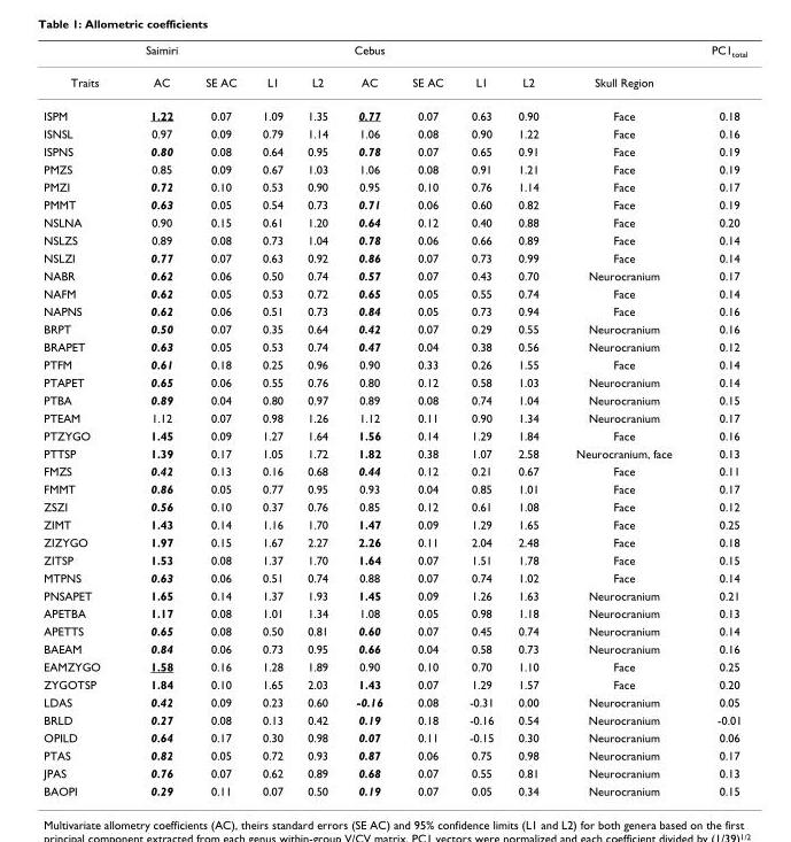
<table><thead><tr><td></td><td>Saimiri</td><td></td><td></td><td></td><td>Cebus</td><td></td><td></td><td></td><td></td><td>PC1<sub>total</sub></td></tr></thead><tbody><tr><td>Traits</td><td>AC</td><td>SE AC</td><td>L1</td><td>L2</td><td>AC</td><td>SE AC</td><td>L1</td><td>L2</td><td>Skull Region</td><td></td></tr><tr><td>ISPM</td><td>1.22</td><td>0.07</td><td>1.09</td><td>1.35</td><td>0.77</td><td>0.07</td><td>0.63</td><td>0.90</td><td>Face</td><td>0.18</td></tr><tr><td>ISNSL</td><td>0.97</td><td>0.09</td><td>0.79</td><td>1.14</td><td>1.06</td><td>0.08</td><td>0.90</td><td>1.22</td><td>Face</td><td>0.16</td></tr><tr><td>ISPNS</td><td>0.80</td><td>0.08</td><td>0.64</td><td>0.95</td><td>0.78</td><td>0.07</td><td>0.65</td><td>0.91</td><td>Face</td><td>0.19</td></tr><tr><td>PMZS</td><td>0.85</td><td>0.09</td><td>0.67</td><td>1.03</td><td>1.06</td><td>0.08</td><td>0.91</td><td>1.21</td><td>Face</td><td>0.19</td></tr><tr><td>PMZI</td><td>0.72</td><td>0.10</td><td>0.53</td><td>0.90</td><td>0.95</td><td>0.10</td><td>0.76</td><td>1.14</td><td>Face</td><td>0.17</td></tr><tr><td>PMMT</td><td>0.63</td><td>0.05</td><td>0.54</td><td>0.73</td><td>0.71</td><td>0.06</td><td>0.60</td><td>0.82</td><td>Face</td><td>0.19</td></tr><tr><td>NSLNA</td><td>0.90</td><td>0.15</td><td>0.61</td><td>1.20</td><td>0.64</td><td>0.12</td><td>0.40</td><td>0.88</td><td>Face</td><td>0.20</td></tr><tr><td>NSLZS</td><td>0.89</td><td>0.08</td><td>0.73</td><td>1.04</td><td>0.78</td><td>0.06</td><td>0.66</td><td>0.89</td><td>Face</td><td>0.14</td></tr><tr><td>NSLZI</td><td>0.77</td><td>0.07</td><td>0.63</td><td>0.92</td><td>0.86</td><td>0.07</td><td>0.73</td><td>0.99</td><td>Face</td><td>0.14</td></tr><tr><td>NABR</td><td>0.62</td><td>0.06</td><td>0.50</td><td>0.74</td><td>0.57</td><td>0.07</td><td>0.43</td><td>0.70</td><td>Neurocranium</td><td>0.17</td></tr><tr><td>NAFM</td><td>0.62</td><td>0.05</td><td>0.53</td><td>0.72</td><td>0.65</td><td>0.05</td><td>0.55</td><td>0.74</td><td>Face</td><td>0.14</td></tr><tr><td>NAPNS</td><td>0.62</td><td>0.06</td><td>0.51</td><td>0.73</td><td>0.84</td><td>0.05</td><td>0.73</td><td>0.94</td><td>Face</td><td>0.16</td></tr><tr><td>BRPT</td><td>0.50</td><td>0.07</td><td>0.35</td><td>0.64</td><td>0.42</td><td>0.07</td><td>0.29</td><td>0.55</td><td>Neurocranium</td><td>0.16</td></tr><tr><td>BRAPET</td><td>0.63</td><td>0.05</td><td>0.53</td><td>0.74</td><td>0.47</td><td>0.04</td><td>0.38</td><td>0.56</td><td>Neurocranium</td><td>0.12</td></tr><tr><td>PTFM</td><td>0.61</td><td>0.18</td><td>0.25</td><td>0.96</td><td>0.90</td><td>0.33</td><td>0.26</td><td>1.55</td><td>Face</td><td>0.14</td></tr><tr><td>PTAPET</td><td>0.65</td><td>0.06</td><td>0.55</td><td>0.76</td><td>0.80</td><td>0.12</td><td>0.58</td><td>1.03</td><td>Neurocranium</td><td>0.14</td></tr><tr><td>PTBA</td><td>0.89</td><td>0.04</td><td>0.80</td><td>0.97</td><td>0.89</td><td>0.08</td><td>0.74</td><td>1.04</td><td>Neurocranium</td><td>0.15</td></tr><tr><td>PTEAM</td><td>1.12</td><td>0.07</td><td>0.98</td><td>1.26</td><td>1.12</td><td>0.11</td><td>0.90</td><td>1.34</td><td>Neurocranium</td><td>0.17</td></tr><tr><td>PTZYGO</td><td>1.45</td><td>0.09</td><td>1.27</td><td>1.64</td><td>1.56</td><td>0.14</td><td>1.29</td><td>1.84</td><td>Face</td><td>0.16</td></tr><tr><td>PTTSP</td><td>1.39</td><td>0.17</td><td>1.05</td><td>1.72</td><td>1.82</td><td>0.38</td><td>1.07</td><td>2.58</td><td>Neurocranium, face</td><td>0.13</td></tr><tr><td>FMZS</td><td>0.42</td><td>0.13</td><td>0.16</td><td>0.68</td><td>0.44</td><td>0.12</td><td>0.21</td><td>0.67</td><td>Face</td><td>0.11</td></tr><tr><td>FMMT</td><td>0.86</td><td>0.05</td><td>0.77</td><td>0.95</td><td>0.93</td><td>0.04</td><td>0.85</td><td>1.01</td><td>Face</td><td>0.17</td></tr><tr><td>ZSZI</td><td>0.56</td><td>0.10</td><td>0.37</td><td>0.76</td><td>0.85</td><td>0.12</td><td>0.61</td><td>1.08</td><td>Face</td><td>0.12</td></tr><tr><td>ZIMT</td><td>1.43</td><td>0.14</td><td>1.16</td><td>1.70</td><td>1.47</td><td>0.09</td><td>1.29</td><td>1.65</td><td>Face</td><td>0.25</td></tr><tr><td>ZIZYGO</td><td>1.97</td><td>0.15</td><td>1.67</td><td>2.27</td><td>2.26</td><td>0.11</td><td>2.04</td><td>2.48</td><td>Face</td><td>0.18</td></tr><tr><td>ZITSP</td><td>1.53</td><td>0.08</td><td>1.37</td><td>1.70</td><td>1.64</td><td>0.07</td><td>1.51</td><td>1.78</td><td>Face</td><td>0.15</td></tr><tr><td>MTPNS</td><td>0.63</td><td>0.06</td><td>0.51</td><td>0.74</td><td>0.88</td><td>0.07</td><td>0.74</td><td>1.02</td><td>Face</td><td>0.14</td></tr><tr><td>PNSAPET</td><td>1.65</td><td>0.14</td><td>1.37</td><td>1.93</td><td>1.45</td><td>0.09</td><td>1.26</td><td>1.63</td><td>Neurocranium</td><td>0.21</td></tr><tr><td>APETBA</td><td>1.17</td><td>0.08</td><td>1.01</td><td>1.34</td><td>1.08</td><td>0.05</td><td>0.98</td><td>1.18</td><td>Neurocranium</td><td>0.13</td></tr><tr><td>APETTS</td><td>0.65</td><td>0.08</td><td>0.50</td><td>0.81</td><td>0.60</td><td>0.07</td><td>0.45</td><td>0.74</td><td>Neurocranium</td><td>0.14</td></tr><tr><td>BAEAM</td><td>0.84</td><td>0.06</td><td>0.73</td><td>0.95</td><td>0.66</td><td>0.04</td><td>0.58</td><td>0.73</td><td>Neurocranium</td><td>0.16</td></tr><tr><td>EAMZYGO</td><td>1.58</td><td>0.16</td><td>1.28</td><td>1.89</td><td>0.90</td><td>0.10</td><td>0.70</td><td>1.10</td><td>Face</td><td>0.25</td></tr><tr><td>ZYGOTSP</td><td>1.84</td><td>0.10</td><td>1.65</td><td>2.03</td><td>1.43</td><td>0.07</td><td>1.29</td><td>1.57</td><td>Face</td><td>0.20</td></tr><tr><td>LDAS</td><td>0.42</td><td>0.09</td><td>0.23</td><td>0.60</td><td>-0.16</td><td>0.08</td><td>-0.31</td><td>0.00</td><td>Neurocranium</td><td>0.05</td></tr><tr><td>BRLD</td><td>0.27</td><td>0.08</td><td>0.13</td><td>0.42</td><td>0.19</td><td>0.18</td><td>-0.16</td><td>0.54</td><td>Neurocranium</td><td>-0.01</td></tr><tr><td>OPILD</td><td>0.64</td><td>0.17</td><td>0.30</td><td>0.98</td><td>0.07</td><td>0.11</td><td>-0.15</td><td>0.30</td><td>Neurocranium</td><td>0.06</td></tr><tr><td>PTAS</td><td>0.82</td><td>0.05</td><td>0.72</td><td>0.93</td><td>0.87</td><td>0.06</td><td>0.75</td><td>0.98</td><td>Neurocranium</td><td>0.17</td></tr><tr><td>JPAS</td><td>0.76</td><td>0.07</td><td>0.62</td><td>0.89</td><td>0.68</td><td>0.07</td><td>0.55</td><td>0.81</td><td>Neurocranium</td><td>0.13</td></tr><tr><td>BAOPI</td><td>0.29</td><td>0.11</td><td>0.07</td><td>0.50</td><td>0.19</td><td>0.07</td><td>0.05</td><td>0.34</td><td>Neurocranium</td><td>0.15</td></tr></tbody></table>